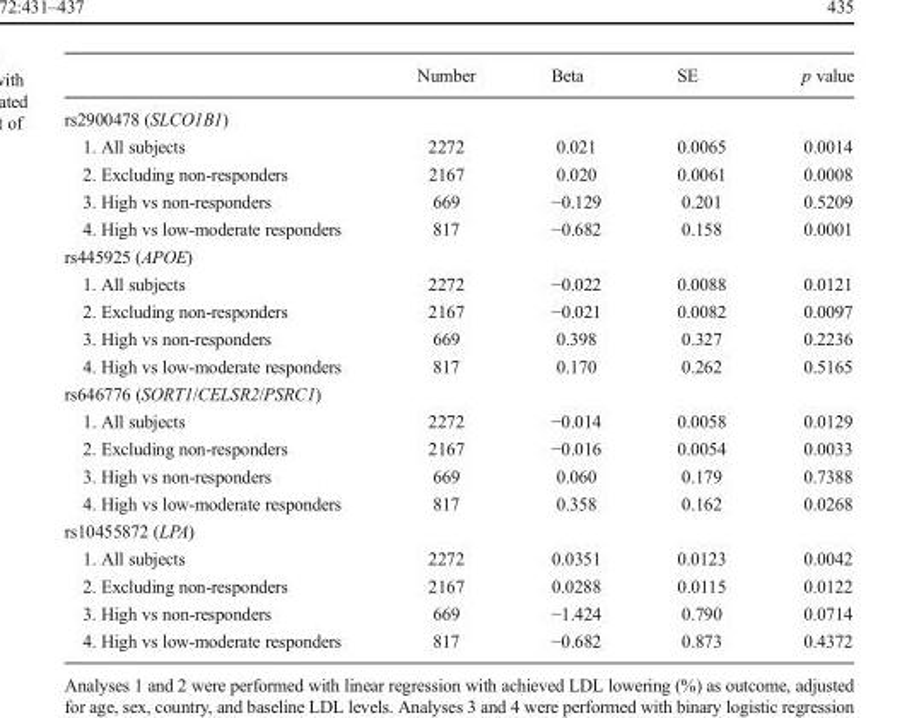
<table><thead><tr><td></td><td>Number</td><td>Beta</td><td>SE</td><td>p value</td></tr></thead><tbody><tr><td colspan="5">rs2900478 (SLCO1B1)</td></tr><tr><td>1. All subjects</td><td>2272</td><td>0.021</td><td>0.0065</td><td>0.0014</td></tr><tr><td>2. Excluding non-responders</td><td>2167</td><td>0.020</td><td>0.0061</td><td>0.0008</td></tr><tr><td>3. High vs non-responders</td><td>669</td><td>−0.129</td><td>0.201</td><td>0.5209</td></tr><tr><td>4. High vs low-moderate responders</td><td>817</td><td>−0.682</td><td>0.158</td><td>0.0001</td></tr><tr><td colspan="5">rs445925 (APOE)</td></tr><tr><td>1. All subjects</td><td>2272</td><td>−0.022</td><td>0.0088</td><td>0.0121</td></tr><tr><td>2. Excluding non-responders</td><td>2167</td><td>−0.021</td><td>0.0082</td><td>0.0097</td></tr><tr><td>3. High vs non-responders</td><td>669</td><td>0.398</td><td>0.327</td><td>0.2236</td></tr><tr><td>4. High vs low-moderate responders</td><td>817</td><td>0.170</td><td>0.262</td><td>0.5165</td></tr><tr><td colspan="5">rs646776 (SORT1/CELSR2/PSRC1)</td></tr><tr><td>1. All subjects</td><td>2272</td><td>−0.014</td><td>0.0058</td><td>0.0129</td></tr><tr><td>2. Excluding non-responders</td><td>2167</td><td>−0.016</td><td>0.0054</td><td>0.0033</td></tr><tr><td>3. High vs non-responders</td><td>669</td><td>0.060</td><td>0.179</td><td>0.7388</td></tr><tr><td>4. High vs low-moderate responders</td><td>817</td><td>0.358</td><td>0.162</td><td>0.0268</td></tr><tr><td colspan="5">rs10455872 (LPA)</td></tr><tr><td>1. All subjects</td><td>2272</td><td>0.0351</td><td>0.0123</td><td>0.0042</td></tr><tr><td>2. Excluding non-responders</td><td>2167</td><td>0.0288</td><td>0.0115</td><td>0.0122</td></tr><tr><td>3. High vs non-responders</td><td>669</td><td>−1.424</td><td>0.790</td><td>0.0714</td></tr><tr><td>4. High vs low-moderate responders</td><td>817</td><td>−0.682</td><td>0.873</td><td>0.4372</td></tr></tbody></table>